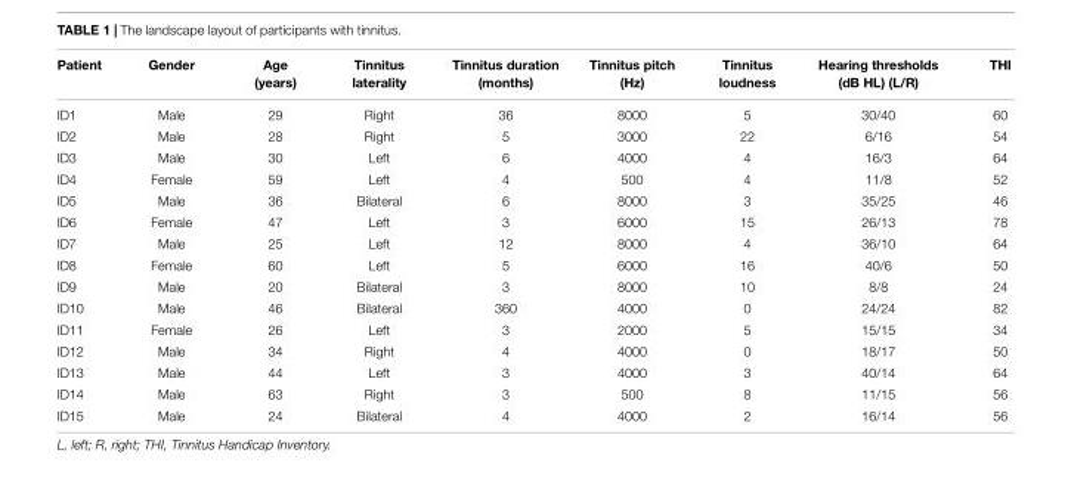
<table><thead><tr><td>Patient</td><td>Gender</td><td>Age (years)</td><td>Tinnitus laterality</td><td>Tinnitus duration (months)</td><td>Tinnitus pitch (Hz)</td><td>Tinnitus loudness</td><td>Hearing thresholds (dB HL) (L/R)</td><td>THI</td></tr></thead><tbody><tr><td>ID1</td><td>Male</td><td>29</td><td>Right</td><td>36</td><td>8000</td><td>5</td><td>30/40</td><td>60</td></tr><tr><td>ID2</td><td>Male</td><td>28</td><td>Right</td><td>5</td><td>3000</td><td>22</td><td>6/16</td><td>54</td></tr><tr><td>ID3</td><td>Male</td><td>30</td><td>Left</td><td>6</td><td>4000</td><td>4</td><td>16/3</td><td>64</td></tr><tr><td>ID4</td><td>Female</td><td>59</td><td>Left</td><td>4</td><td>500</td><td>4</td><td>11/8</td><td>52</td></tr><tr><td>ID5</td><td>Male</td><td>36</td><td>Bilateral</td><td>6</td><td>8000</td><td>3</td><td>35/25</td><td>46</td></tr><tr><td>ID6</td><td>Female</td><td>47</td><td>Left</td><td>3</td><td>6000</td><td>15</td><td>26/13</td><td>78</td></tr><tr><td>ID7</td><td>Male</td><td>25</td><td>Left</td><td>12</td><td>8000</td><td>4</td><td>36/10</td><td>64</td></tr><tr><td>ID8</td><td>Female</td><td>60</td><td>Left</td><td>5</td><td>6000</td><td>16</td><td>40/6</td><td>50</td></tr><tr><td>ID9</td><td>Male</td><td>20</td><td>Bilateral</td><td>3</td><td>8000</td><td>10</td><td>8/8</td><td>24</td></tr><tr><td>ID10</td><td>Male</td><td>46</td><td>Bilateral</td><td>360</td><td>4000</td><td>0</td><td>24/24</td><td>82</td></tr><tr><td>ID11</td><td>Female</td><td>26</td><td>Left</td><td>3</td><td>2000</td><td>5</td><td>15/15</td><td>34</td></tr><tr><td>ID12</td><td>Male</td><td>34</td><td>Right</td><td>4</td><td>4000</td><td>0</td><td>18/17</td><td>50</td></tr><tr><td>ID13</td><td>Male</td><td>44</td><td>Left</td><td>3</td><td>4000</td><td>3</td><td>40/14</td><td>64</td></tr><tr><td>ID14</td><td>Male</td><td>63</td><td>Right</td><td>3</td><td>500</td><td>8</td><td>11/15</td><td>56</td></tr><tr><td>ID15</td><td>Male</td><td>24</td><td>Bilateral</td><td>4</td><td>4000</td><td>2</td><td>16/14</td><td>56</td></tr></tbody></table>